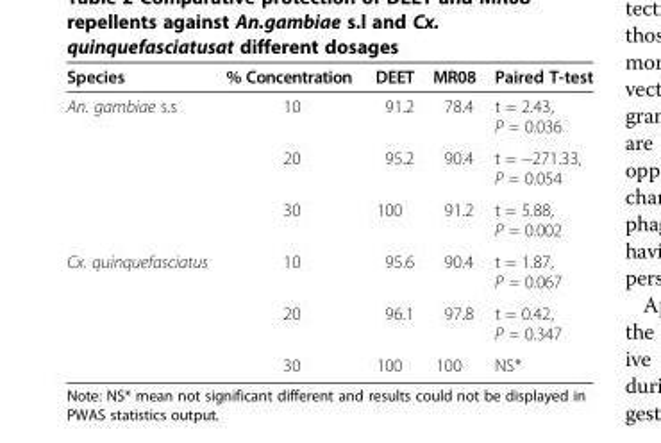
<table><thead><tr><td>Species</td><td>% Concentration</td><td>DEET</td><td>MR08</td><td>Paired T-test</td></tr></thead><tbody><tr><td rowspan="3">An. gambiae s.s</td><td>10</td><td>91.2</td><td>78.4</td><td>t = 2.43, P = 0.036</td></tr><tr><td>20</td><td>95.2</td><td>90.4</td><td>t = −271.33, P = 0.054</td></tr><tr><td>30</td><td>100</td><td>91.2</td><td>t = 5.88, P = 0.002</td></tr><tr><td rowspan="3">Cx. quinquefasciatus</td><td>10</td><td>95.6</td><td>90.4</td><td>t = 1.87, P = 0.067</td></tr><tr><td>20</td><td>96.1</td><td>97.8</td><td>t = 0.42, P = 0.347</td></tr><tr><td>30</td><td>100</td><td>100</td><td>NS*</td></tr></tbody></table>